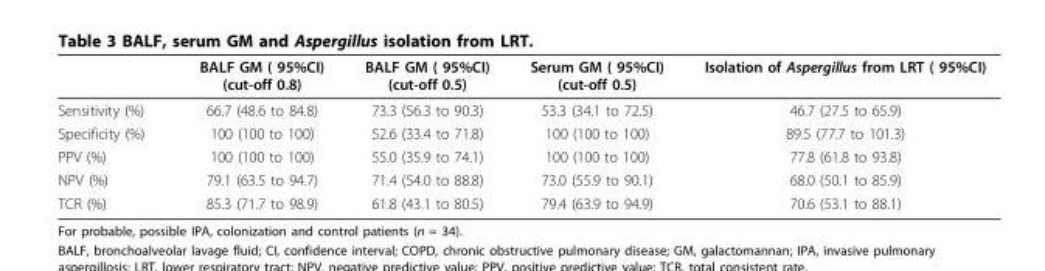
<table><thead><tr><td></td><td>BALF GM ( 95%CI) (cut-off 0.8)</td><td>BALF GM ( 95%CI) (cut-off 0.5)</td><td>Serum GM ( 95%CI) (cut-off 0.5)</td><td>Isolation of Aspergillus from LRT ( 95%CI)</td></tr></thead><tbody><tr><td>Sensitivity (%)</td><td>66.7 (48.6 to 84.8)</td><td>73.3 (56.3 to 90.3)</td><td>53.3 (34.1 to 72.5)</td><td>46.7 (27.5 to 65.9)</td></tr><tr><td>Specificity (%)</td><td>100 (100 to 100)</td><td>52.6 (33.4 to 71.8)</td><td>100 (100 to 100)</td><td>89.5 (77.7 to 101.3)</td></tr><tr><td>PPV (%)</td><td>100 (100 to 100)</td><td>55.0 (35.9 to 74.1)</td><td>100 (100 to 100)</td><td>77.8 (61.8 to 93.8)</td></tr><tr><td>NPV (%)</td><td>79.1 (63.5 to 94.7)</td><td>71.4 (54.0 to 88.8)</td><td>73.0 (55.9 to 90.1)</td><td>68.0 (50.1 to 85.9)</td></tr><tr><td>TCR (%)</td><td>85.3 (71.7 to 98.9)</td><td>61.8 (43.1 to 80.5)</td><td>79.4 (63.9 to 94.9)</td><td>70.6 (53.1 to 88.1)</td></tr></tbody></table>